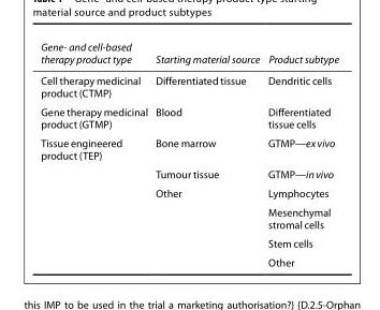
<table><thead><tr><td>Gene- and cell-based therapy product type</td><td>Starting material source</td><td>Product subtype</td></tr></thead><tbody><tr><td>Cell therapy medicinal product (CTMP)</td><td>Differentiated tissue</td><td>Dendritic cells</td></tr><tr><td>Gene therapy medicinal product (GTMP)</td><td>Blood</td><td>Differentiated tissue cells</td></tr><tr><td rowspan="6">Tissue engineered product (TEP)</td><td>Bone marrow</td><td>GTMP—ex vivo</td></tr><tr><td>Tumour tissue</td><td>GTMP—in vivo</td></tr><tr><td>Other</td><td>Lymphocytes</td></tr><tr><td></td><td>Mesenchymal stromal cells</td></tr><tr><td></td><td>Stem cells</td></tr><tr><td></td><td>Other</td></tr></tbody></table>